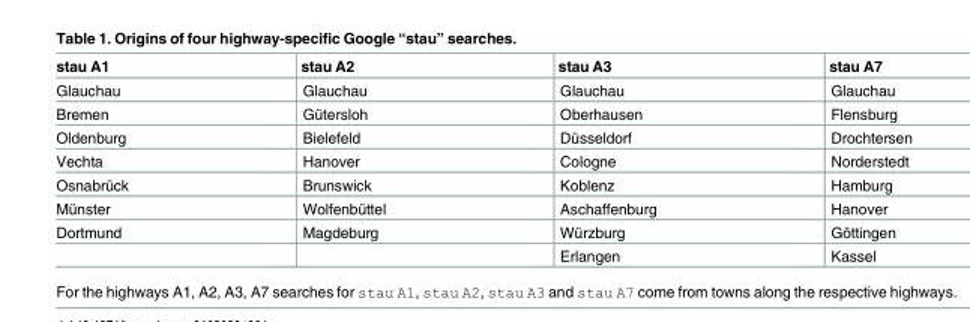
<table><thead><tr><td>stau A1</td><td>stau A2</td><td>stau A3</td><td>stau A7</td></tr></thead><tbody><tr><td>Glauchau</td><td>Glauchau</td><td>Glauchau</td><td>Glauchau</td></tr><tr><td>Bremen</td><td>Gütersloh</td><td>Oberhausen</td><td>Flensburg</td></tr><tr><td>Oldenburg</td><td>Bielefeld</td><td>Düsseldorf</td><td>Drochtersen</td></tr><tr><td>Vechta</td><td>Hanover</td><td>Cologne</td><td>Norderstedt</td></tr><tr><td>Osnabrück</td><td>Brunswick</td><td>Koblenz</td><td>Hamburg</td></tr><tr><td>Münster</td><td>Wolfenbüttel</td><td>Aschaffenburg</td><td>Hanover</td></tr><tr><td rowspan="2">Dortmund</td><td>Magdeburg</td><td>Würzburg</td><td>Göttingen</td></tr><tr><td></td><td>Erlangen</td><td>Kassel</td></tr></tbody></table>